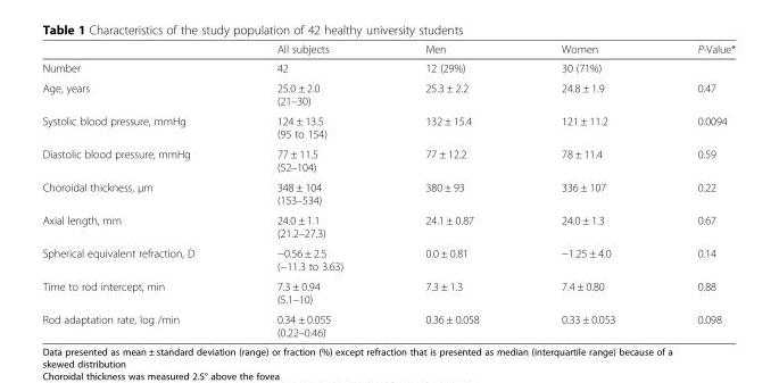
<table><thead><tr><td></td><td>All subjects</td><td>Men</td><td>Women</td><td>P-Value*</td></tr></thead><tbody><tr><td>Number</td><td>42</td><td>12 (29%)</td><td>30 (71%)</td><td></td></tr><tr><td>Age, years</td><td>25.0 ± 2.0 (21–30)</td><td>25.3 ± 2.2</td><td>24.8 ± 1.9</td><td>0.47</td></tr><tr><td>Systolic blood pressure, mmHg</td><td>124 ± 13.5 (95 to 154)</td><td>132 ± 15.4</td><td>121 ± 11.2</td><td>0.0094</td></tr><tr><td>Diastolic blood pressure, mmHg</td><td>77 ± 11.5 (52–104)</td><td>77 ± 12.2</td><td>78 ± 11.4</td><td>0.59</td></tr><tr><td>Choroidal thickness, μm</td><td>348 ± 104 (153–534)</td><td>380 ± 93</td><td>336 ± 107</td><td>0.22</td></tr><tr><td>Axial length, mm</td><td>24.0 ± 1.1 (21.2–27.3)</td><td>24.1 ± 0.87</td><td>24.0 ± 1.3</td><td>0.67</td></tr><tr><td>Spherical equivalent refraction, D</td><td>−0.56 ± 2.5 (−11.3 to 3.63)</td><td>0.0 ± 0.81</td><td>−1.25 ± 4.0</td><td>0.14</td></tr><tr><td>Time to rod intercept, min</td><td>7.3 ± 0.94 (5.1–10)</td><td>7.3 ± 1.3</td><td>7.4 ± 0.80</td><td>0.88</td></tr><tr><td>Rod adaptation rate, log /min</td><td>0.34 ± 0.055 (0.22–0.46)</td><td>0.36 ± 0.058</td><td>0.33 ± 0.053</td><td>0.098</td></tr></tbody></table>